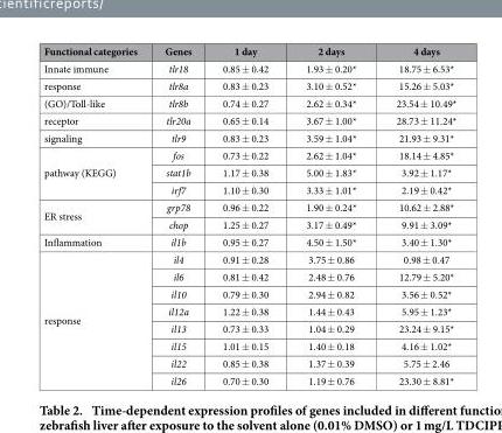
<table><thead><tr><td>Functional categories</td><td>Genes</td><td>1 day</td><td>2 days</td><td>4 days</td></tr></thead><tbody><tr><td>Innate immune</td><td>tlr18</td><td>0.85 ± 0.42</td><td>1.93 ± 0.20*</td><td>18.75 ± 6.53*</td></tr><tr><td>response</td><td>tlr8a</td><td>0.83 ± 0.23</td><td>3.10 ± 0.52*</td><td>15.26 ± 5.03*</td></tr><tr><td>(GO)/Toll-like</td><td>tlr8b</td><td>0.74 ± 0.27</td><td>2.62 ± 0.34*</td><td>23.54 ± 10.49*</td></tr><tr><td>receptor</td><td>tlr20a</td><td>0.65 ± 0.14</td><td>3.67 ± 1.00*</td><td>28.73 ± 11.24*</td></tr><tr><td>signaling</td><td>tlr9</td><td>0.83 ± 0.23</td><td>3.59 ± 1.04*</td><td>21.93 ± 9.31*</td></tr><tr><td rowspan="3">pathway (KEGG)</td><td>fos</td><td>0.73 ± 0.22</td><td>2.62 ± 1.04*</td><td>18.14 ± 4.85*</td></tr><tr><td>stat1b</td><td>1.17 ± 0.38</td><td>5.00 ± 1.83*</td><td>3.92 ± 1.17*</td></tr><tr><td>irf7</td><td>1.10 ± 0.30</td><td>3.33 ± 1.01*</td><td>2.19 ± 0.42*</td></tr><tr><td rowspan="2">ER stress</td><td>grp78</td><td>0.96 ± 0.22</td><td>1.90 ± 0.24*</td><td>10.62 ± 2.88*</td></tr><tr><td>chop</td><td>1.25 ± 0.27</td><td>3.17 ± 0.49*</td><td>9.91 ± 3.09*</td></tr><tr><td>Inflammation</td><td>il1b</td><td>0.95 ± 0.27</td><td>4.50 ± 1.50*</td><td>3.40 ± 1.30*</td></tr><tr><td rowspan="8">response</td><td>il4</td><td>0.91 ± 0.28</td><td>3.75 ± 0.86</td><td>0.98 ± 0.47</td></tr><tr><td>il6</td><td>0.81 ± 0.42</td><td>2.48 ± 0.76</td><td>12.79 ± 5.20*</td></tr><tr><td>il10</td><td>0.79 ± 0.30</td><td>2.94 ± 0.82</td><td>3.56 ± 0.52*</td></tr><tr><td>il12a</td><td>1.22 ± 0.38</td><td>1.44 ± 0.43</td><td>5.95 ± 1.23*</td></tr><tr><td>il13</td><td>0.73 ± 0.33</td><td>1.04 ± 0.29</td><td>23.24 ± 9.15*</td></tr><tr><td>il15</td><td>1.01 ± 0.15</td><td>1.40 ± 0.18</td><td>4.16 ± 1.02*</td></tr><tr><td>il22</td><td>0.85 ± 0.38</td><td>1.37 ± 0.39</td><td>5.75 ± 2.46</td></tr><tr><td>il26</td><td>0.70 ± 0.30</td><td>1.19 ± 0.76</td><td>23.30 ± 8.81*</td></tr></tbody></table>